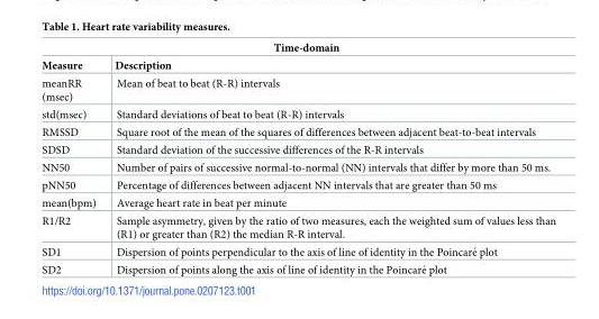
<table><thead><tr><td colspan="2">Time-domain</td></tr><tr><td>Measure</td><td>Description</td></tr></thead><tbody><tr><td>meanRR (msec)</td><td>Mean of beat to beat (R-R) intervals</td></tr><tr><td>std(msec)</td><td>Standard deviations of beat to beat (R-R) intervals</td></tr><tr><td>RMSSD</td><td>Square root of the mean of the squares of differences between adjacent beat-to-beat intervals</td></tr><tr><td>SDSD</td><td>Standard deviation of the successive differences of the R-R intervals</td></tr><tr><td>NN50</td><td>Number of pairs of successive normal-to-normal (NN) intervals that differ by more than 50 ms.</td></tr><tr><td>pNN50</td><td>Percentage of differences between adjacent NN intervals that are greater than 50 ms</td></tr><tr><td>mean(bpm)</td><td>Average heart rate in beat per minute</td></tr><tr><td>R1/R2</td><td>Sample asymmetry, given by the ratio of two measures, each the weighted sum of values less than (R1) or greater than (R2) the median R-R interval.</td></tr><tr><td>SD1</td><td>Dispersion of points perpendicular to the axis of line of identity in the Poincare´ plot</td></tr><tr><td>SD2</td><td>Dispersion of points along the axis of line of identity in the Poincare´ plot</td></tr></tbody></table>